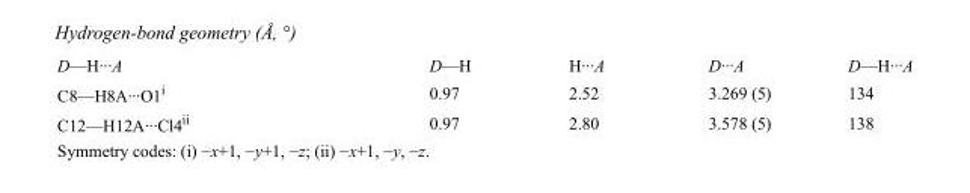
<table><tbody><tr><td>D—H···A</td><td>D—H</td><td>H···A</td><td>D···A</td><td>D—H···A</td></tr><tr><td>C8—H8A···O1<sup>i</sup></td><td>0.97</td><td>2.52</td><td>3.269 (5)</td><td>134</td></tr><tr><td>C12—H12A···Cl4<sup>ii</sup></td><td>0.97</td><td>2.80</td><td>3.578 (5)</td><td>138</td></tr></tbody></table>